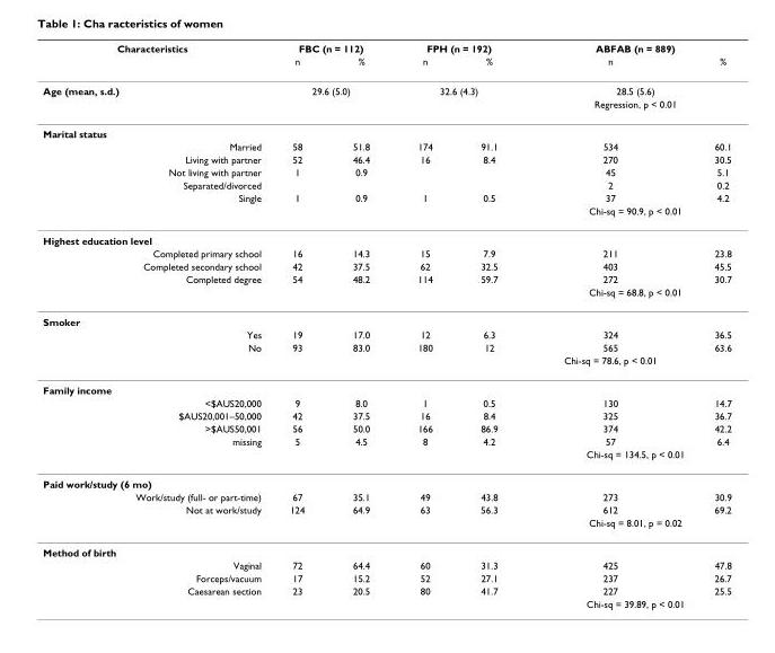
<table><thead><tr><td rowspan="2">Characteristics</td><td colspan="2">FBC (n = 112)</td><td colspan="2">FPH (n = 192)</td><td colspan="2">ABFAB (n = 889)</td></tr><tr><td>n</td><td>%</td><td>n</td><td>%</td><td>n</td><td>%</td></tr></thead><tbody><tr><td rowspan="2">Age (mean, s.d.)</td><td colspan="2">29.6 (5.0)</td><td colspan="2">32.6 (4.3)</td><td colspan="2">28.5 (5.6)</td></tr><tr><td></td><td></td><td></td><td></td><td colspan="2">Regression, p &lt; 0.01</td></tr><tr><td colspan="7">Marital status</td></tr><tr><td>Married</td><td>58</td><td>51.8</td><td>174</td><td>91.1</td><td>534</td><td>60.1</td></tr><tr><td>Living with partner</td><td>52</td><td>46.4</td><td>16</td><td>8.4</td><td>270</td><td>30.5</td></tr><tr><td>Not living with partner</td><td>1</td><td>0.9</td><td></td><td></td><td>45</td><td>5.1</td></tr><tr><td>Separated/divorced</td><td></td><td></td><td></td><td></td><td>2</td><td>0.2</td></tr><tr><td rowspan="2">Single</td><td>1</td><td>0.9</td><td>1</td><td>0.5</td><td>37</td><td>4.2</td></tr><tr><td></td><td></td><td></td><td></td><td colspan="2">Chi-sq = 90.9, p &lt; 0.01</td></tr><tr><td colspan="7">Highest education level</td></tr><tr><td>Completed primary school</td><td>16</td><td>14.3</td><td>15</td><td>7.9</td><td>211</td><td>23.8</td></tr><tr><td>Completed secondary school</td><td>42</td><td>37.5</td><td>62</td><td>32.5</td><td>403</td><td>45.5</td></tr><tr><td rowspan="2">Completed degree</td><td>54</td><td>48.2</td><td>114</td><td>59.7</td><td>272</td><td>30.7</td></tr><tr><td></td><td></td><td></td><td></td><td colspan="2">Chi-sq = 68.8, p &lt; 0.01</td></tr><tr><td colspan="7">Smoker</td></tr><tr><td>Yes</td><td>19</td><td>17.0</td><td>12</td><td>6.3</td><td>324</td><td>36.5</td></tr><tr><td rowspan="2">No</td><td>93</td><td>83.0</td><td>180</td><td>12</td><td>565</td><td>63.6</td></tr><tr><td></td><td></td><td></td><td></td><td>Chi-sq = 78.6, p &lt; 0.01</td><td></td></tr><tr><td colspan="7">Family income</td></tr><tr><td>&lt;$AUS20,000</td><td>9</td><td>8.0</td><td>1</td><td>0.5</td><td>130</td><td>14.7</td></tr><tr><td>$AUS20,001–50,000</td><td>42</td><td>37.5</td><td>16</td><td>8.4</td><td>325</td><td>36.7</td></tr><tr><td>&gt;$AUS50,001</td><td>56</td><td>50.0</td><td>166</td><td>86.9</td><td>374</td><td>42.2</td></tr><tr><td rowspan="2">missing</td><td>5</td><td>4.5</td><td>8</td><td>4.2</td><td>57</td><td>6.4</td></tr><tr><td></td><td></td><td></td><td></td><td colspan="2">Chi-sq = 134.5, p &lt; 0.01</td></tr><tr><td colspan="7">Paid work/study (6 mo)</td></tr><tr><td>Work/study (full- or part-time)</td><td>67</td><td>35.1</td><td>49</td><td>43.8</td><td>273</td><td>30.9</td></tr><tr><td rowspan="2">Not at work/study</td><td>124</td><td>64.9</td><td>63</td><td>56.3</td><td>612</td><td>69.2</td></tr><tr><td></td><td></td><td></td><td></td><td colspan="2">Chi-sq = 8.01, p = 0.02</td></tr><tr><td colspan="7">Method of birth</td></tr><tr><td>Vaginal</td><td>72</td><td>64.4</td><td>60</td><td>31.3</td><td>425</td><td>47.8</td></tr><tr><td>Forceps/vacuum</td><td>17</td><td>15.2</td><td>52</td><td>27.1</td><td>237</td><td>26.7</td></tr><tr><td rowspan="2">Caesarean section</td><td>23</td><td>20.5</td><td>80</td><td>41.7</td><td>227</td><td>25.5</td></tr><tr><td></td><td></td><td></td><td></td><td colspan="2">Chi-sq = 39.89, p &lt; 0.01</td></tr></tbody></table>